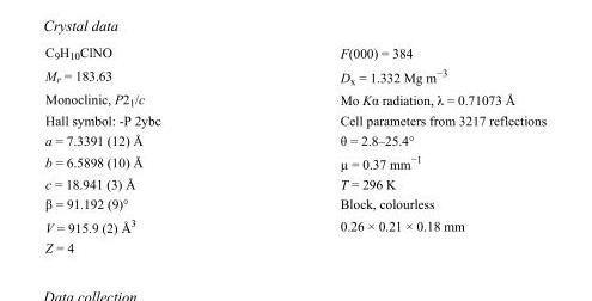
<table><tbody><tr><td>C<sub>9</sub>H<sub>10</sub>ClNO</td><td>F(000) = 384</td></tr><tr><td>M<sub>r</sub> = 183.63</td><td>D<sub>x</sub> = 1.332 Mg m<sup>−3</sup></td></tr><tr><td>Monoclinic, P2<sub>1</sub>/c</td><td>Mo Kα radiation, λ = 0.71073 Å</td></tr><tr><td>Hall symbol: -P 2ybc</td><td>Cell parameters from 3217 reflections</td></tr><tr><td>a = 7.3391 (12) Å</td><td>θ = 2.8–25.4°</td></tr><tr><td>b = 6.5898 (10) Å</td><td>µ = 0.37 mm<sup>−1</sup></td></tr><tr><td>c = 18.941 (3) Å</td><td>T = 296 K</td></tr><tr><td>β = 91.192 (9)°</td><td>Block, colourless</td></tr><tr><td>V = 915.9 (2) Å<sup>3</sup></td><td>0.26 × 0.21 × 0.18 mm</td></tr><tr><td>Z = 4</td><td></td></tr></tbody></table>